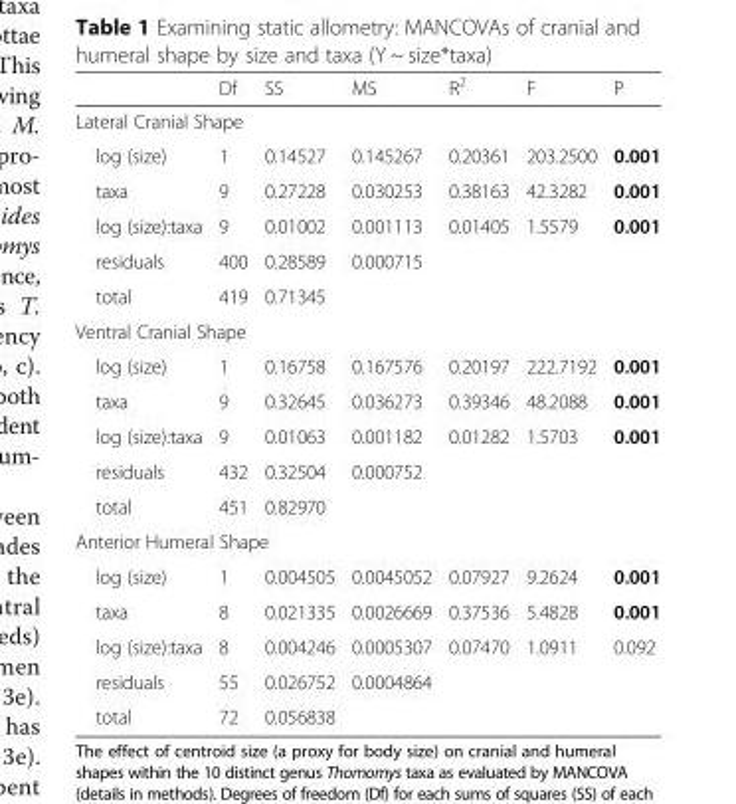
<table><thead><tr><td></td><td>Df</td><td>SS</td><td>MS</td><td>R<sup>2</sup></td><td>F</td><td>P</td></tr></thead><tbody><tr><td colspan="7">Lateral Cranial Shape</td></tr><tr><td>log (size)</td><td>1</td><td>0.14527</td><td>0.145267</td><td>0.20361</td><td>203.2500</td><td>0.001</td></tr><tr><td>taxa</td><td>9</td><td>0.27228</td><td>0.030253</td><td>0.38163</td><td>42.3282</td><td>0.001</td></tr><tr><td>log (size):taxa</td><td>9</td><td>0.01002</td><td>0.001113</td><td>0.01405</td><td>1.5579</td><td>0.001</td></tr><tr><td>residuals</td><td>400</td><td>0.28589</td><td>0.000715</td><td></td><td></td><td></td></tr><tr><td>total</td><td>419</td><td>0.71345</td><td></td><td></td><td></td><td></td></tr><tr><td colspan="7">Ventral Cranial Shape</td></tr><tr><td>log (size)</td><td>1</td><td>0.16758</td><td>0.167576</td><td>0.20197</td><td>222.7192</td><td>0.001</td></tr><tr><td>taxa</td><td>9</td><td>0.32645</td><td>0.036273</td><td>0.39346</td><td>48.2088</td><td>0.001</td></tr><tr><td>log (size):taxa</td><td>9</td><td>0.01063</td><td>0.001182</td><td>0.01282</td><td>1.5703</td><td>0.001</td></tr><tr><td>residuals</td><td>432</td><td>0.32504</td><td>0.000752</td><td></td><td></td><td></td></tr><tr><td>total</td><td>451</td><td>0.82970</td><td></td><td></td><td></td><td></td></tr><tr><td colspan="7">Anterior Humeral Shape</td></tr><tr><td>log (size)</td><td>1</td><td>0.004505</td><td>0.0045052</td><td>0.07927</td><td>9.2624</td><td>0.001</td></tr><tr><td>taxa</td><td>8</td><td>0.021335</td><td>0.0026669</td><td>0.37536</td><td>5.4828</td><td>0.001</td></tr><tr><td>log (size):taxa</td><td>8</td><td>0.004246</td><td>0.0005307</td><td>0.07470</td><td>1.0911</td><td>0.092</td></tr><tr><td>residuals</td><td>55</td><td>0.026752</td><td>0.0004864</td><td></td><td></td><td></td></tr><tr><td>total</td><td>72</td><td>0.056838</td><td></td><td></td><td></td><td></td></tr></tbody></table>